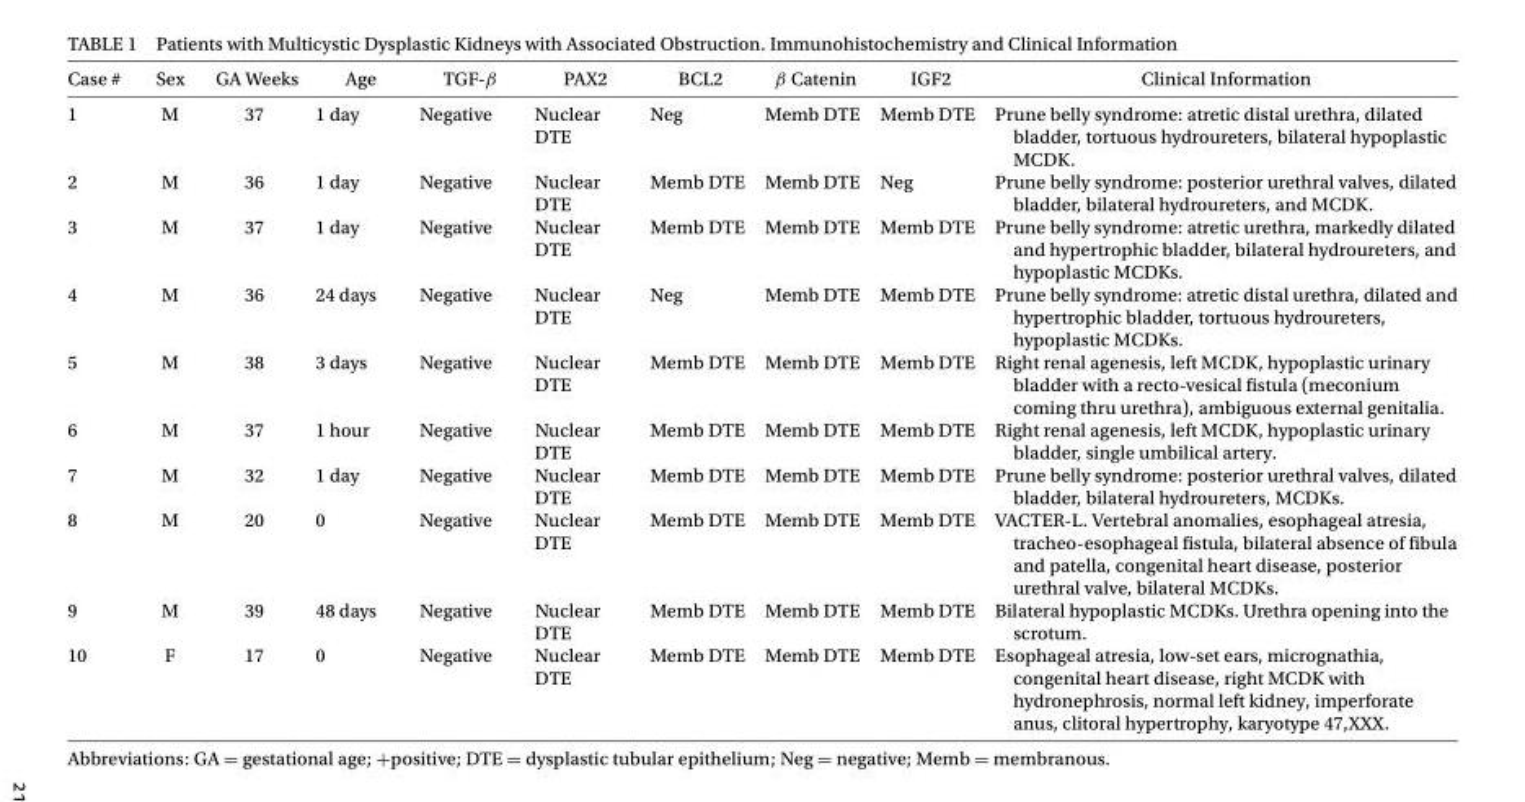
<table><thead><tr><td>Case #</td><td>Sex</td><td>GA Weeks</td><td>Age</td><td>TGF-β</td><td>PAX2</td><td>BCL2</td><td>β Catenin</td><td>IGF2</td><td>Clinical Information</td></tr></thead><tbody><tr><td>1</td><td>M</td><td>37</td><td>1 day</td><td>Negative</td><td>Nuclear DTE</td><td>Neg</td><td>Memb DTE</td><td>Memb DTE</td><td>Prune belly syndrome: atretic distal urethra, dilated bladder, tortuous hydroureters, bilateral hypoplastic MCDK.</td></tr><tr><td>2</td><td>M</td><td>36</td><td>1 day</td><td>Negative</td><td>Nuclear DTE</td><td>Memb DTE</td><td>Memb DTE</td><td>Neg</td><td>Prune belly syndrome: posterior urethral valves, dilated bladder, bilateral hydroureters, and MCDK.</td></tr><tr><td>3</td><td>M</td><td>37</td><td>1 day</td><td>Negative</td><td>Nuclear DTE</td><td>Memb DTE</td><td>Memb DTE</td><td>Memb DTE</td><td>Prune belly syndrome: atretic urethra, markedly dilated and hypertrophic bladder, bilateral hydroureters, and hypoplastic MCDKs.</td></tr><tr><td>4</td><td>M</td><td>36</td><td>24 days</td><td>Negative</td><td>Nuclear DTE</td><td>Neg</td><td>Memb DTE</td><td>Memb DTE</td><td>Prune belly syndrome: atretic distal urethra, dilated and hypertrophic bladder, tortuous hydroureters, hypoplastic MCDKs.</td></tr><tr><td>5</td><td>M</td><td>38</td><td>3 days</td><td>Negative</td><td>Nuclear DTE</td><td>Memb DTE</td><td>Memb DTE</td><td>Memb DTE</td><td>Right renal agenesis, left MCDK, hypoplastic urinary bladder with a recto-vesical fistula (meconium coming thru urethra), ambiguous external genitalia.</td></tr><tr><td>6</td><td>M</td><td>37</td><td>1 hour</td><td>Negative</td><td>Nuclear DTE</td><td>Memb DTE</td><td>Memb DTE</td><td>Memb DTE</td><td>Right renal agenesis, left MCDK, hypoplastic urinary bladder, single umbilical artery.</td></tr><tr><td>7</td><td>M</td><td>32</td><td>1 day</td><td>Negative</td><td>Nuclear DTE</td><td>Memb DTE</td><td>Memb DTE</td><td>Memb DTE</td><td>Prune belly syndrome: posterior urethral valves, dilated bladder, bilateral hydroureters, MCDKs.</td></tr><tr><td>8</td><td>M</td><td>20</td><td>0</td><td>Negative</td><td>Nuclear DTE</td><td>Memb DTE</td><td>Memb DTE</td><td>Memb DTE</td><td>VACTER-L. Vertebral anomalies, esophageal atresia, tracheo-esophageal fistula, bilateral absence of fibula and patella, congenital heart disease, posterior urethral valve, bilateral MCDKs.</td></tr><tr><td>9</td><td>M</td><td>39</td><td>48 days</td><td>Negative</td><td>Nuclear DTE</td><td>Memb DTE</td><td>Memb DTE</td><td>Memb DTE</td><td>Bilateral hypoplastic MCDKs. Urethra opening into the scrotum.</td></tr><tr><td>10</td><td>F</td><td>17</td><td>0</td><td>Negative</td><td>Nuclear DTE</td><td>Memb DTE</td><td>Memb DTE</td><td>Memb DTE</td><td>Esophageal atresia, low-set ears, micrognathia, congenital heart disease, right MCDK with hydronephrosis, normal left kidney, imperforate anus, clitoral hypertrophy, karyotype 47,XXX.</td></tr></tbody></table>